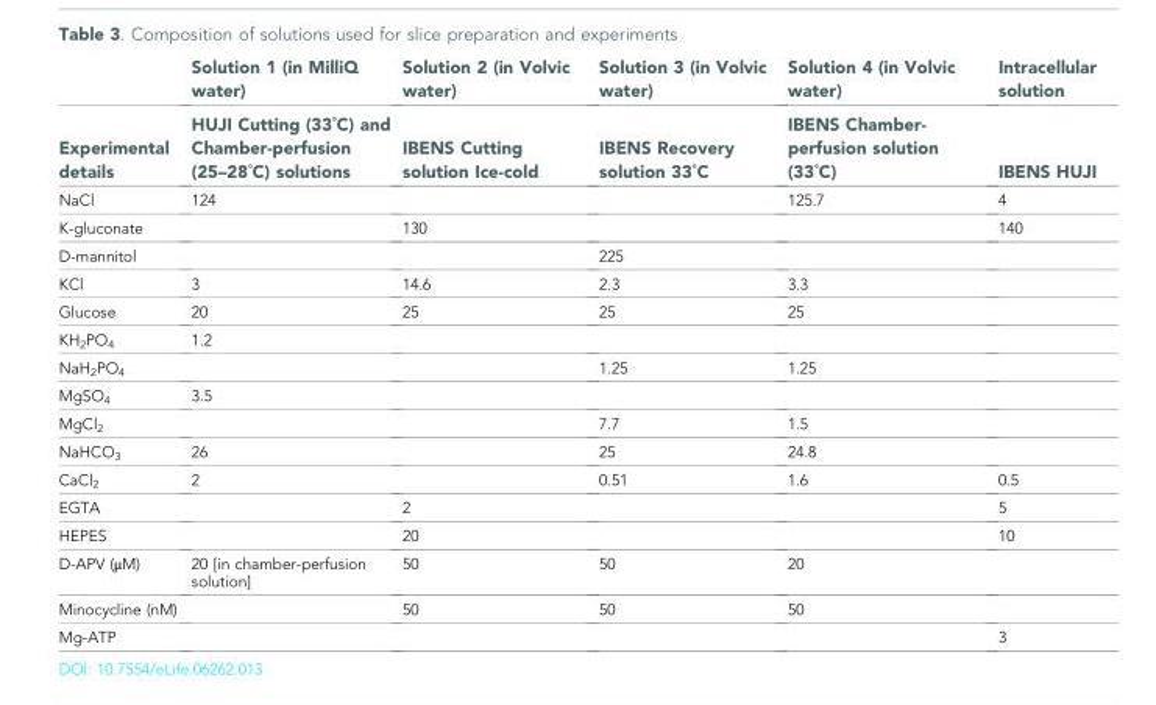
<table><thead><tr><td rowspan="2">Experimental details</td><td rowspan="2">Solution 1 (in MilliQ water) HUJI Cutting (33˚C) and Chamber-perfusion (25–28˚C) solutions</td><td rowspan="2">Solution 2 (in Volvic water) IBENS Cutting solution Ice-cold</td><td rowspan="2">Solution 3 (in Volvic water) IBENS Recovery solution 33˚C</td><td rowspan="2">Solution 4 (in Volvic water) IBENS Chamber- perfusion solution (33˚C)</td><td rowspan="2">Intracellular solution IBENS HUJI</td></tr><tr></tr></thead><tbody><tr><td>NaCl</td><td>124</td><td></td><td></td><td>125.7</td><td>4</td></tr><tr><td>K-gluconate</td><td></td><td>130</td><td></td><td></td><td>140</td></tr><tr><td>D-mannitol</td><td></td><td></td><td>225</td><td></td><td></td></tr><tr><td>KCl</td><td>3</td><td>14.6</td><td>2.3</td><td>3.3</td><td></td></tr><tr><td>Glucose</td><td>20</td><td>25</td><td>25</td><td>25</td><td></td></tr><tr><td>KH<sub>2</sub>PO<sub>4</sub></td><td>1.2</td><td></td><td></td><td></td><td></td></tr><tr><td>NaH<sub>2</sub>PO<sub>4</sub></td><td></td><td></td><td>1.25</td><td>1.25</td><td></td></tr><tr><td>MgSO<sub>4</sub></td><td>3.5</td><td></td><td></td><td></td><td></td></tr><tr><td>MgCl<sub>2</sub></td><td></td><td></td><td>7.7</td><td>1.5</td><td></td></tr><tr><td>NaHCO<sub>3</sub></td><td>26</td><td></td><td>25</td><td>24.8</td><td></td></tr><tr><td>CaCl<sub>2</sub></td><td>2</td><td></td><td>0.51</td><td>1.6</td><td>0.5</td></tr><tr><td>EGTA</td><td></td><td>2</td><td></td><td></td><td>5</td></tr><tr><td>HEPES</td><td></td><td>20</td><td></td><td></td><td>10</td></tr><tr><td>D-APV (μM)</td><td>20 [in chamber-perfusion solution]</td><td>50</td><td>50</td><td>20</td><td></td></tr><tr><td>Minocycline (nM)</td><td></td><td>50</td><td>50</td><td>50</td><td></td></tr><tr><td>Mg-ATP</td><td></td><td></td><td></td><td></td><td>3</td></tr></tbody></table>